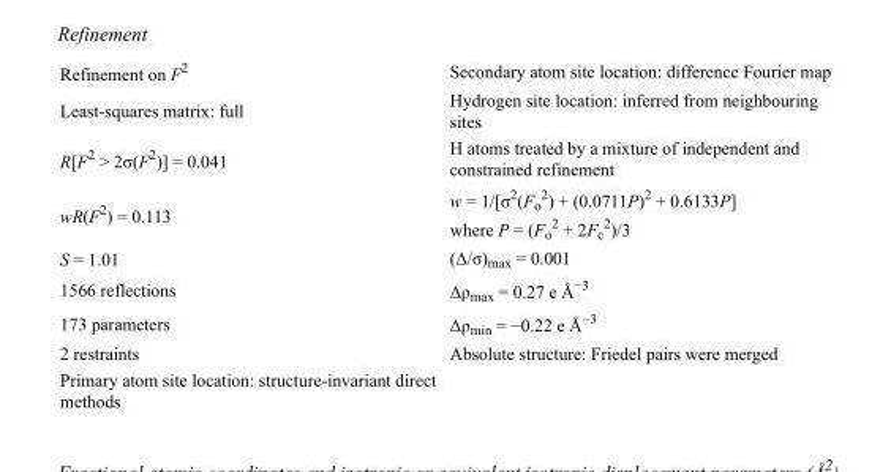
<table><tbody><tr><td>Refinement on F<sup>2</sup></td><td>Secondary atom site location: difference Fourier map</td></tr><tr><td>Least-squares matrix: full</td><td>Hydrogen site location: inferred from neighbouring sites</td></tr><tr><td>R[F<sup>2</sup> &gt; 2σ(F<sup>2</sup>)] = 0.041</td><td>H atoms treated by a mixture of independent and constrained refinement</td></tr><tr><td>wR(F<sup>2</sup>) = 0.113</td><td>w = 1/[σ<sup>2</sup>(F<sub>o</sub> <sup>2</sup>) + (0.0711P)<sup>2</sup> + 0.6133P] where P = (F<sub>o</sub> <sup>2</sup> + 2F<sub>c</sub> <sup>2</sup>)/3</td></tr><tr><td>S = 1.01</td><td>(Δ/σ)<sub>max</sub> = 0.001</td></tr><tr><td>1566 reflections</td><td>Δρ<sub>max</sub> = 0.27 e Å<sup>−3</sup></td></tr><tr><td>173 parameters</td><td>Δρmin = −0.22 e Å−3</td></tr><tr><td>2 restraints</td><td>Absolute structure: Friedel pairs were merged</td></tr><tr><td>Primary atom site location: structure-invariant direct methods</td><td></td></tr></tbody></table>